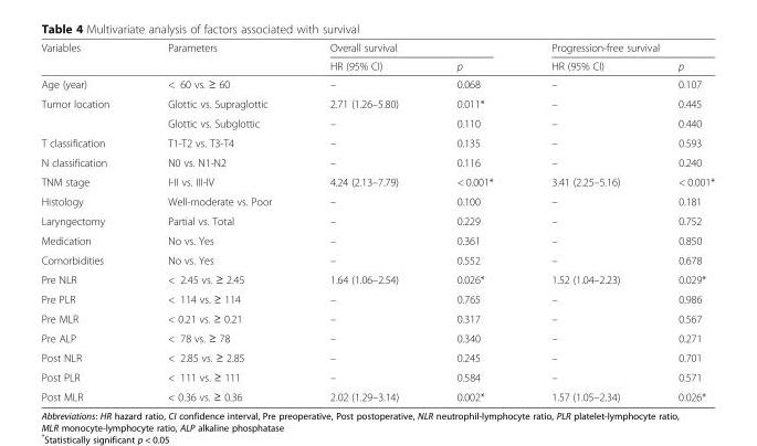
<table><thead><tr><td rowspan="2">Variables</td><td rowspan="2">Parameters</td><td colspan="2">Overall survival</td><td colspan="2">Progression-free survival</td></tr><tr><td>HR (95% CI)</td><td>p</td><td>HR (95% CI)</td><td>p</td></tr></thead><tbody><tr><td>Age (year)</td><td>&lt; 60 vs. ≥ 60</td><td>–</td><td>0.068</td><td>–</td><td>0.107</td></tr><tr><td rowspan="2">Tumor location</td><td>Glottic vs. Supraglottic</td><td>2.71 (1.26–5.80)</td><td>0.011*</td><td>–</td><td>0.445</td></tr><tr><td>Glottic vs. Subglottic</td><td>–</td><td>0.110</td><td>–</td><td>0.440</td></tr><tr><td>T classification</td><td>T1-T2 vs. T3-T4</td><td>–</td><td>0.135</td><td>–</td><td>0.593</td></tr><tr><td>N classification</td><td>N0 vs. N1-N2</td><td>–</td><td>0.116</td><td>–</td><td>0.240</td></tr><tr><td>TNM stage</td><td>I-II vs. III-IV</td><td>4.24 (2.13–7.79)</td><td>&lt; 0.001*</td><td>3.41 (2.25–5.16)</td><td>&lt; 0.001*</td></tr><tr><td>Histology</td><td>Well-moderate vs. Poor</td><td>–</td><td>0.100</td><td>–</td><td>0.181</td></tr><tr><td>Laryngectomy</td><td>Partial vs. Total</td><td>–</td><td>0.229</td><td>–</td><td>0.752</td></tr><tr><td>Medication</td><td>No vs. Yes</td><td>–</td><td>0.361</td><td>–</td><td>0.850</td></tr><tr><td>Comorbidities</td><td>No vs. Yes</td><td>–</td><td>0.552</td><td>–</td><td>0.678</td></tr><tr><td>Pre NLR</td><td>&lt; 2.45 vs. ≥ 2.45</td><td>1.64 (1.06–2.54)</td><td>0.026*</td><td>1.52 (1.04–2.23)</td><td>0.029*</td></tr><tr><td>Pre PLR</td><td>&lt; 114 vs. ≥ 114</td><td>–</td><td>0.765</td><td>–</td><td>0.986</td></tr><tr><td>Pre MLR</td><td>&lt; 0.21 vs. ≥ 0.21</td><td>–</td><td>0.317</td><td>–</td><td>0.567</td></tr><tr><td>Pre ALP</td><td>&lt; 78 vs. ≥ 78</td><td>–</td><td>0.340</td><td>–</td><td>0.271</td></tr><tr><td>Post NLR</td><td>&lt; 2.85 vs. ≥ 2.85</td><td>–</td><td>0.245</td><td>–</td><td>0.701</td></tr><tr><td>Post PLR</td><td>&lt; 111 vs. ≥ 111</td><td>–</td><td>0.584</td><td>–</td><td>0.571</td></tr><tr><td>Post MLR</td><td>&lt; 0.36 vs. ≥ 0.36</td><td>2.02 (1.29–3.14)</td><td>0.002*</td><td>1.57 (1.05–2.34)</td><td>0.026*</td></tr></tbody></table>